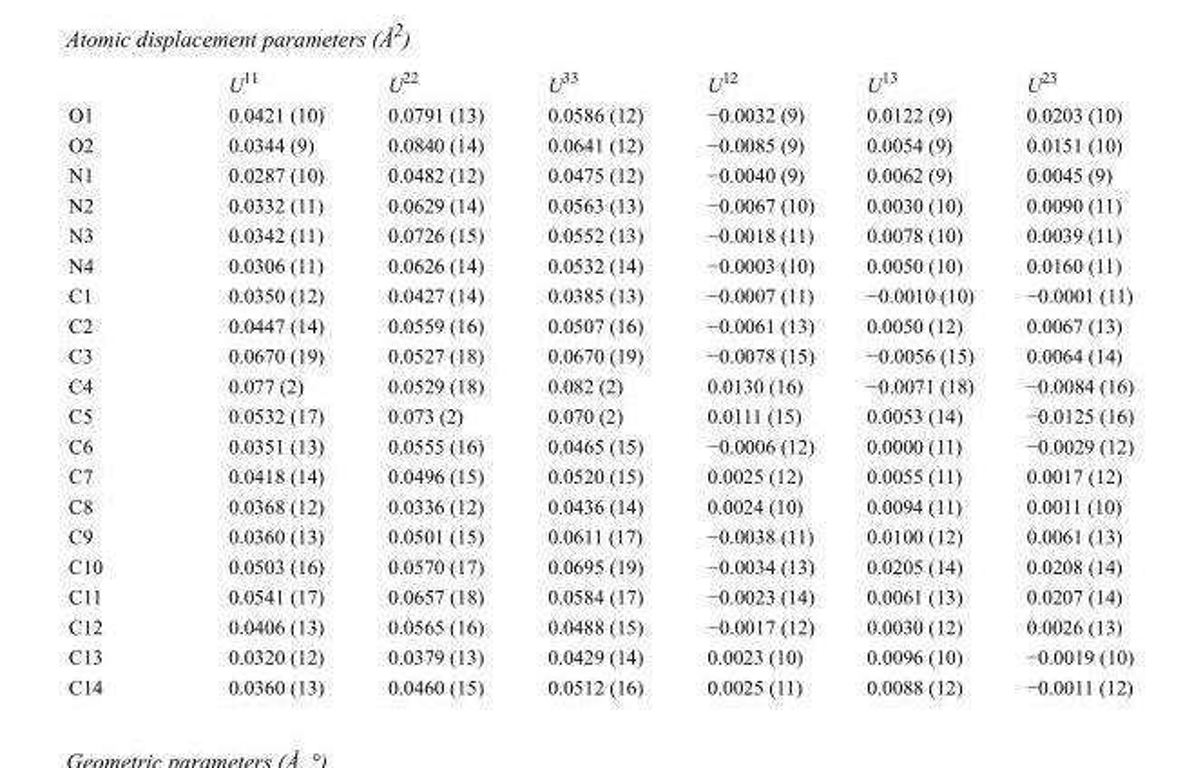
<table><thead><tr><td></td><td>U<sup>11</sup></td><td>U<sup>22</sup></td><td>U<sup>33</sup></td><td>U<sup>12</sup></td><td>U<sup>13</sup></td><td>U<sup>23</sup></td></tr></thead><tbody><tr><td>O1</td><td>0.0421 (10)</td><td>0.0791 (13)</td><td>0.0586 (12)</td><td>−0.0032 (9)</td><td>0.0122 (9)</td><td>0.0203 (10)</td></tr><tr><td>O2</td><td>0.0344 (9)</td><td>0.0840 (14)</td><td>0.0641 (12)</td><td>−0.0085 (9)</td><td>0.0054 (9)</td><td>0.0151 (10)</td></tr><tr><td>N1</td><td>0.0287 (10)</td><td>0.0482 (12)</td><td>0.0475 (12)</td><td>−0.0040 (9)</td><td>0.0062 (9)</td><td>0.0045 (9)</td></tr><tr><td>N2</td><td>0.0332 (11)</td><td>0.0629 (14)</td><td>0.0563 (13)</td><td>−0.0067 (10)</td><td>0.0030 (10)</td><td>0.0090 (11)</td></tr><tr><td>N3</td><td>0.0342 (11)</td><td>0.0726 (15)</td><td>0.0552 (13)</td><td>−0.0018 (11)</td><td>0.0078 (10)</td><td>0.0039 (11)</td></tr><tr><td>N4</td><td>0.0306 (11)</td><td>0.0626 (14)</td><td>0.0532 (14)</td><td>−0.0003 (10)</td><td>0.0050 (10)</td><td>0.0160 (11)</td></tr><tr><td>C1</td><td>0.0350 (12)</td><td>0.0427 (14)</td><td>0.0385 (13)</td><td>−0.0007 (11)</td><td>−0.0010 (10)</td><td>−0.0001 (11)</td></tr><tr><td>C2</td><td>0.0447 (14)</td><td>0.0559 (16)</td><td>0.0507 (16)</td><td>−0.0061 (13)</td><td>0.0050 (12)</td><td>0.0067 (13)</td></tr><tr><td>C3</td><td>0.0670 (19)</td><td>0.0527 (18)</td><td>0.0670 (19)</td><td>−0.0078 (15)</td><td>−0.0056 (15)</td><td>0.0064 (14)</td></tr><tr><td>C4</td><td>0.077 (2)</td><td>0.0529 (18)</td><td>0.082 (2)</td><td>0.0130 (16)</td><td>−0.0071 (18)</td><td>−0.0084 (16)</td></tr><tr><td>C5</td><td>0.0532 (17)</td><td>0.073 (2)</td><td>0.070 (2)</td><td>0.0111 (15)</td><td>0.0053 (14)</td><td>−0.0125 (16)</td></tr><tr><td>C6</td><td>0.0351 (13)</td><td>0.0555 (16)</td><td>0.0465 (15)</td><td>−0.0006 (12)</td><td>0.0000 (11)</td><td>−0.0029 (12)</td></tr><tr><td>C7</td><td>0.0418 (14)</td><td>0.0496 (15)</td><td>0.0520 (15)</td><td>0.0025 (12)</td><td>0.0055 (11)</td><td>0.0017 (12)</td></tr><tr><td>C8</td><td>0.0368 (12)</td><td>0.0336 (12)</td><td>0.0436 (14)</td><td>0.0024 (10)</td><td>0.0094 (11)</td><td>0.0011 (10)</td></tr><tr><td>C9</td><td>0.0360 (13)</td><td>0.0501 (15)</td><td>0.0611 (17)</td><td>−0.0038 (11)</td><td>0.0100 (12)</td><td>0.0061 (13)</td></tr><tr><td>C10</td><td>0.0503 (16)</td><td>0.0570 (17)</td><td>0.0695 (19)</td><td>−0.0034 (13)</td><td>0.0205 (14)</td><td>0.0208 (14)</td></tr><tr><td>C11</td><td>0.0541 (17)</td><td>0.0657 (18)</td><td>0.0584 (17)</td><td>−0.0023 (14)</td><td>0.0061 (13)</td><td>0.0207 (14)</td></tr><tr><td>C12</td><td>0.0406 (13)</td><td>0.0565 (16)</td><td>0.0488 (15)</td><td>−0.0017 (12)</td><td>0.0030 (12)</td><td>0.0026 (13)</td></tr><tr><td>C13</td><td>0.0320 (12)</td><td>0.0379 (13)</td><td>0.0429 (14)</td><td>0.0023 (10)</td><td>0.0096 (10)</td><td>−0.0019 (10)</td></tr><tr><td>C14</td><td>0.0360 (13)</td><td>0.0460 (15)</td><td>0.0512 (16)</td><td>0.0025 (11)</td><td>0.0088 (12)</td><td>−0.0011 (12)</td></tr></tbody></table>